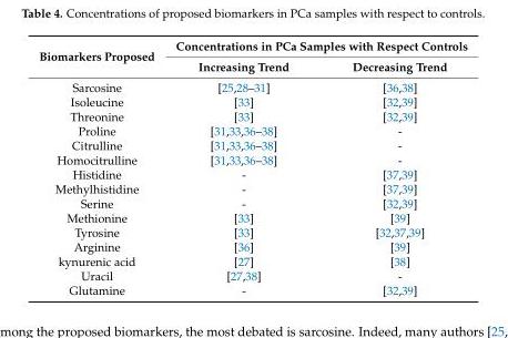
<table><thead><tr><td rowspan="2">Biomarkers Proposed</td><td colspan="2">Concentrations in PCa Samples with Respect Controls</td></tr><tr><td>Increasing Trend</td><td>Decreasing Trend</td></tr></thead><tbody><tr><td>Sarcosine</td><td>[25,28–31]</td><td>[36,38]</td></tr><tr><td>Isoleucine</td><td>[33]</td><td>[32,39]</td></tr><tr><td>Threonine</td><td>[33]</td><td>[32,39]</td></tr><tr><td>Proline</td><td>[31,33,36–38]</td><td>-</td></tr><tr><td>Citrulline</td><td>[31,33,36–38]</td><td>-</td></tr><tr><td>Homocitrulline</td><td>[31,33,36–38]</td><td>-</td></tr><tr><td>Histidine</td><td>-</td><td>[37,39]</td></tr><tr><td>Methylhistidine</td><td>-</td><td>[37,39]</td></tr><tr><td>Serine</td><td>-</td><td>[32,39]</td></tr><tr><td>Methionine</td><td>[33]</td><td>[39]</td></tr><tr><td>Tyrosine</td><td>[33]</td><td>[32,37,39]</td></tr><tr><td>Arginine</td><td>[36]</td><td>[39]</td></tr><tr><td>kynurenic acid</td><td>[27]</td><td>[38]</td></tr><tr><td>Uracil</td><td>[27,38]</td><td>-</td></tr><tr><td>Glutamine</td><td>-</td><td>[32,39]</td></tr></tbody></table>